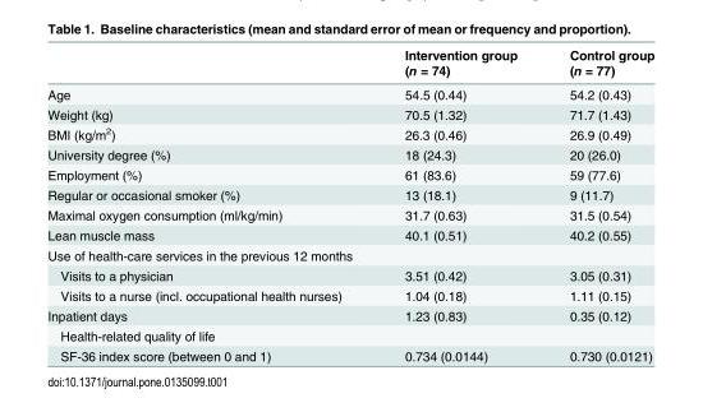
<table><thead><tr><td></td><td>Intervention group (n = 74)</td><td>Control group (n = 77)</td></tr></thead><tbody><tr><td>Age</td><td>54.5 (0.44)</td><td>54.2 (0.43)</td></tr><tr><td>Weight (kg)</td><td>70.5 (1.32)</td><td>71.7 (1.43)</td></tr><tr><td>BMI (kg/m<sup>2</sup>)</td><td>26.3 (0.46)</td><td>26.9 (0.49)</td></tr><tr><td>University degree (%)</td><td>18 (24.3)</td><td>20 (26.0)</td></tr><tr><td>Employment (%)</td><td>61 (83.6)</td><td>59 (77.6)</td></tr><tr><td>Regular or occasional smoker (%)</td><td>13 (18.1)</td><td>9 (11.7)</td></tr><tr><td>Maximal oxygen consumption (ml/kg/min)</td><td>31.7 (0.63)</td><td>31.5 (0.54)</td></tr><tr><td>Lean muscle mass</td><td>40.1 (0.51)</td><td>40.2 (0.55)</td></tr><tr><td colspan="3">Use of health-care services in the previous 12 months</td></tr><tr><td>Visits to a physician</td><td>3.51 (0.42)</td><td>3.05 (0.31)</td></tr><tr><td>Visits to a nurse (incl. occupational health nurses)</td><td>1.04 (0.18)</td><td>1.11 (0.15)</td></tr><tr><td>Inpatient days</td><td>1.23 (0.83)</td><td>0.35 (0.12)</td></tr><tr><td colspan="3">Health-related quality of life</td></tr><tr><td>SF-36 index score (between 0 and 1)</td><td>0.734 (0.0144)</td><td>0.730 (0.0121)</td></tr></tbody></table>